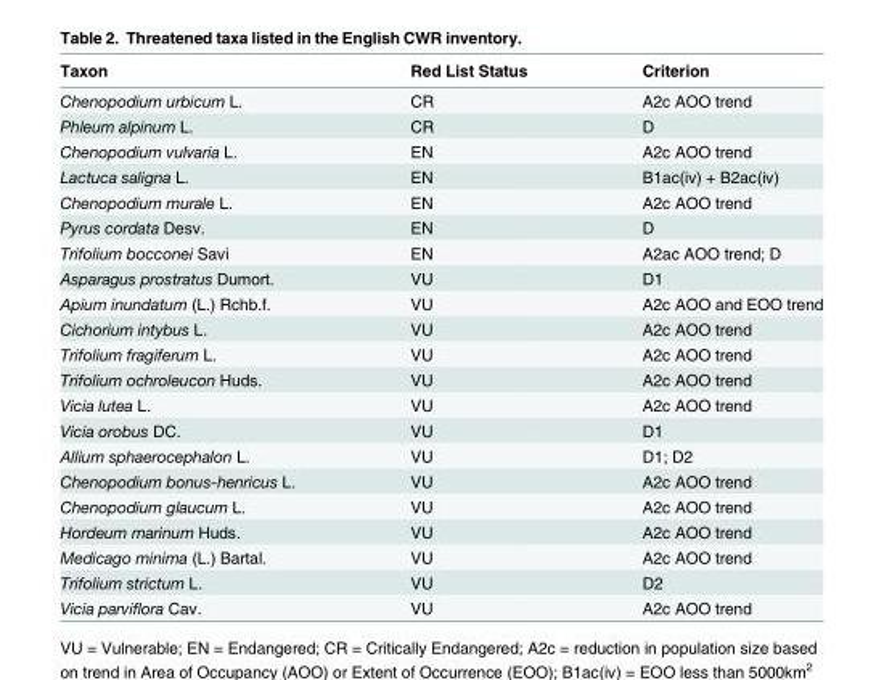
<table><thead><tr><td>Taxon</td><td>Red List Status</td><td>Criterion</td></tr></thead><tbody><tr><td>Chenopodium urbicum L.</td><td>CR</td><td>A2c AOO trend</td></tr><tr><td>Phleum alpinum L.</td><td>CR</td><td>D</td></tr><tr><td>Chenopodium vulvaria L.</td><td>EN</td><td>A2c AOO trend</td></tr><tr><td>Lactuca saligna L.</td><td>EN</td><td>B1ac(iv) + B2ac(iv)</td></tr><tr><td>Chenopodium murale L.</td><td>EN</td><td>A2c AOO trend</td></tr><tr><td>Pyrus cordata Desv.</td><td>EN</td><td>D</td></tr><tr><td>Trifolium bocconei Savi</td><td>EN</td><td>A2ac AOO trend; D</td></tr><tr><td>Asparagus prostratus Dumort.</td><td>VU</td><td>D1</td></tr><tr><td>Apium inundatum (L.) Rchb.f.</td><td>VU</td><td>A2c AOO and EOO trend</td></tr><tr><td>Cichorium intybus L.</td><td>VU</td><td>A2c AOO trend</td></tr><tr><td>Trifolium fragiferum L.</td><td>VU</td><td>A2c AOO trend</td></tr><tr><td>Trifolium ochroleucon Huds.</td><td>VU</td><td>A2c AOO trend</td></tr><tr><td>Vicia lutea L.</td><td>VU</td><td>A2c AOO trend</td></tr><tr><td>Vicia orobus DC.</td><td>VU</td><td>D1</td></tr><tr><td>Allium sphaerocephalon L.</td><td>VU</td><td>D1; D2</td></tr><tr><td>Chenopodium bonus-henricus L.</td><td>VU</td><td>A2c AOO trend</td></tr><tr><td>Chenopodium glaucum L.</td><td>VU</td><td>A2c AOO trend</td></tr><tr><td>Hordeum marinum Huds.</td><td>VU</td><td>A2c AOO trend</td></tr><tr><td>Medicago minima (L.) Bartal.</td><td>VU</td><td>A2c AOO trend</td></tr><tr><td>Trifolium strictum L.</td><td>VU</td><td>D2</td></tr><tr><td>Vicia parviflora Cav.</td><td>VU</td><td>A2c AOO trend</td></tr></tbody></table>